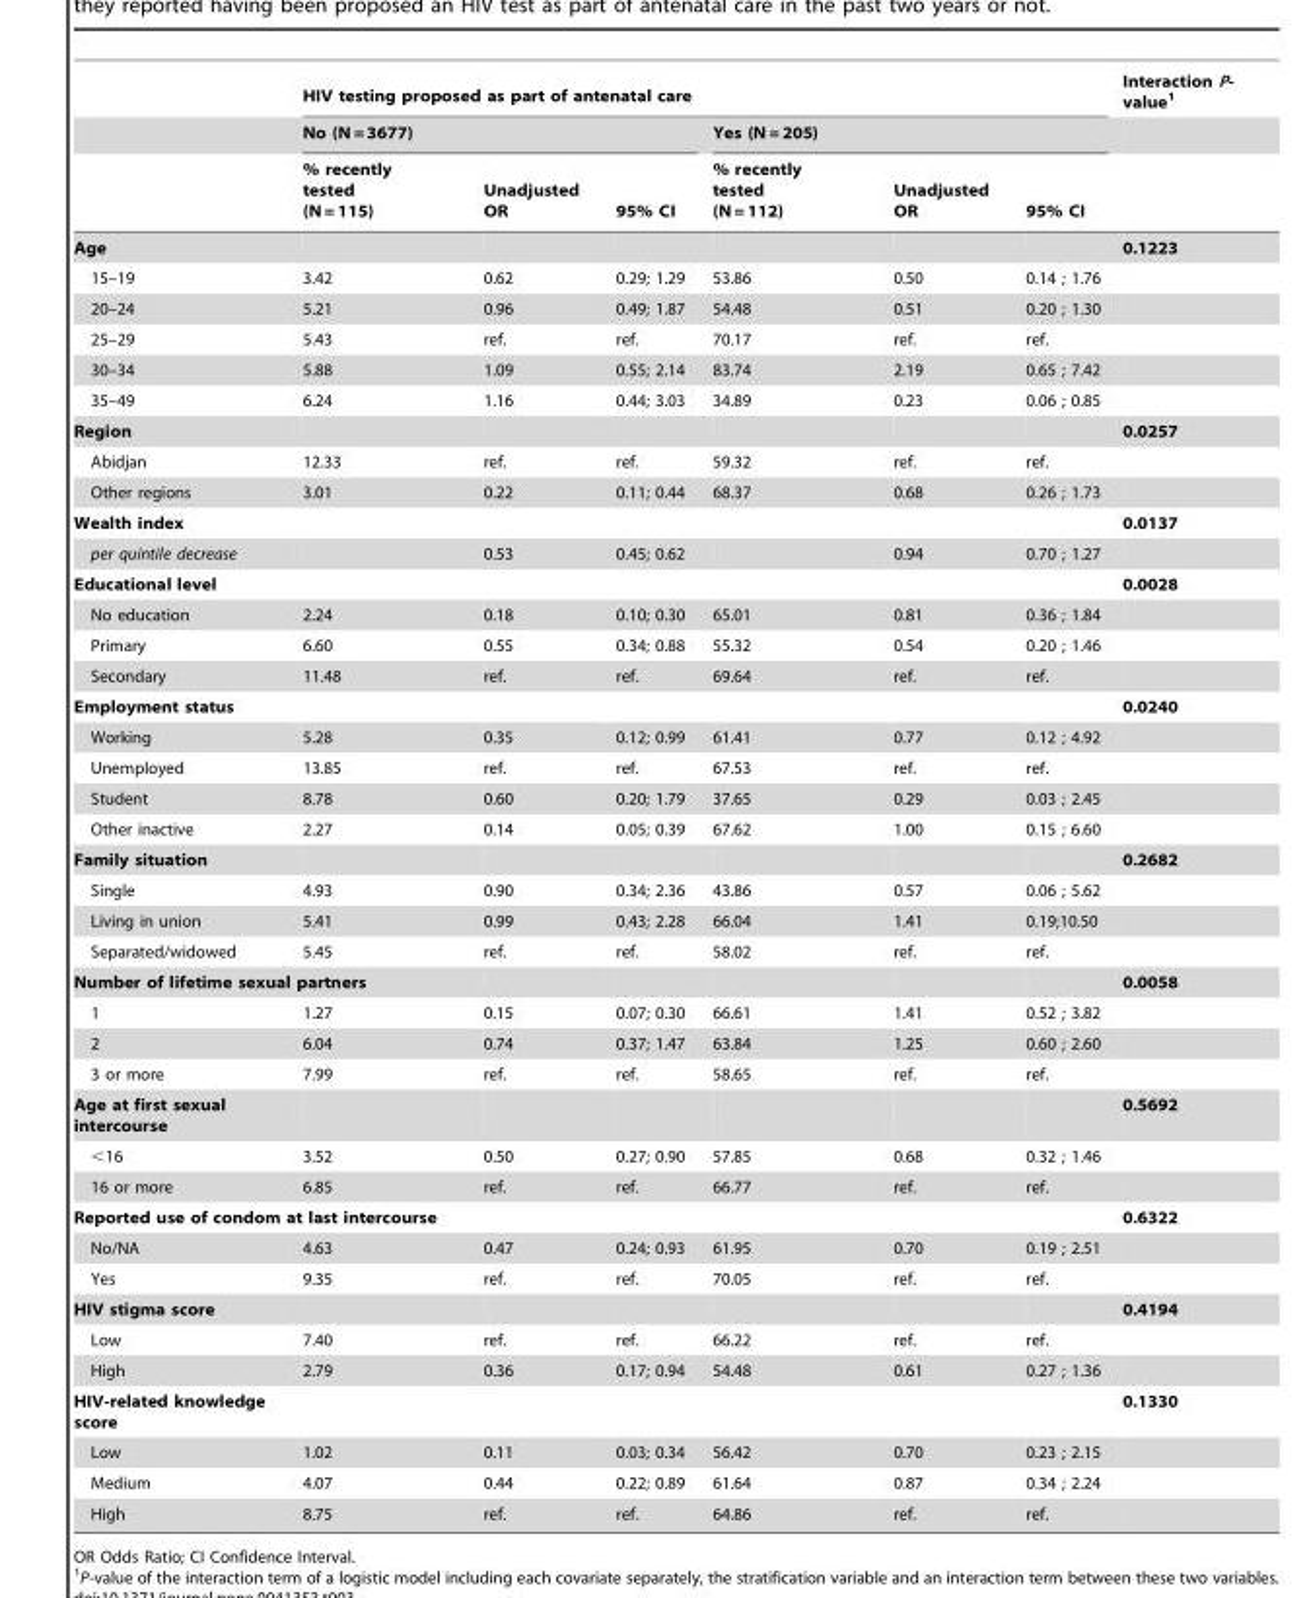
<table><thead><tr><td rowspan="3"></td><td colspan="6">HIV testing proposed as part of antenatal care</td><td rowspan="3">Interaction P- value<sup>1</sup></td></tr><tr><td colspan="3">No (N = 3677)</td><td colspan="3">Yes (N = 205)</td></tr><tr><td>% recently tested (N = 115)</td><td>Unadjusted OR</td><td>95% CI</td><td>% recently tested (N = 112)</td><td>Unadjusted OR</td><td>95% CI</td></tr></thead><tbody><tr><td>Age</td><td></td><td></td><td></td><td></td><td></td><td></td><td>0.1223</td></tr><tr><td>15–19</td><td>3.42</td><td>0.62</td><td>0.29; 1.29</td><td>53.86</td><td>0.50</td><td>0.14 ; 1.76</td><td></td></tr><tr><td>20–24</td><td>5.21</td><td>0.96</td><td>0.49; 1.87</td><td>54.48</td><td>0.51</td><td>0.20 ; 1.30</td><td></td></tr><tr><td>25–29</td><td>5.43</td><td>ref.</td><td>ref.</td><td>70.17</td><td>ref.</td><td>ref.</td><td></td></tr><tr><td>30–34</td><td>5.88</td><td>1.09</td><td>0.55; 2.14</td><td>83.74</td><td>2.19</td><td>0.65 ; 7.42</td><td></td></tr><tr><td>35–49</td><td>6.24</td><td>1.16</td><td>0.44; 3.03</td><td>34.89</td><td>0.23</td><td>0.06 ; 0.85</td><td></td></tr><tr><td>Region</td><td></td><td></td><td></td><td></td><td></td><td></td><td>0.0257</td></tr><tr><td>Abidjan</td><td>12.33</td><td>ref.</td><td>ref.</td><td>59.32</td><td>ref.</td><td>ref.</td><td></td></tr><tr><td>Other regions</td><td>3.01</td><td>0.22</td><td>0.11; 0.44</td><td>68.37</td><td>0.68</td><td>0.26 ; 1.73</td><td></td></tr><tr><td>Wealth index</td><td></td><td></td><td></td><td></td><td></td><td></td><td>0.0137</td></tr><tr><td>per quintile decrease</td><td></td><td>0.53</td><td>0.45; 0.62</td><td></td><td>0.94</td><td>0.70 ; 1.27</td><td></td></tr><tr><td>Educational level</td><td></td><td></td><td></td><td></td><td></td><td></td><td>0.0028</td></tr><tr><td>No education</td><td>2.24</td><td>0.18</td><td>0.10; 0.30</td><td>65.01</td><td>0.81</td><td>0.36 ; 1.84</td><td></td></tr><tr><td>Primary</td><td>6.60</td><td>0.55</td><td>0.34; 0.88</td><td>55.32</td><td>0.54</td><td>0.20 ; 1.46</td><td></td></tr><tr><td>Secondary</td><td>11.48</td><td>ref.</td><td>ref.</td><td>69.64</td><td>ref.</td><td>ref.</td><td></td></tr><tr><td>Employment status</td><td></td><td></td><td></td><td></td><td></td><td></td><td>0.0240</td></tr><tr><td>Working</td><td>5.28</td><td>0.35</td><td>0.12; 0.99</td><td>61.41</td><td>0.77</td><td>0.12 ; 4.92</td><td></td></tr><tr><td>Unemployed</td><td>13.85</td><td>ref.</td><td>ref.</td><td>67.53</td><td>ref.</td><td>ref.</td><td></td></tr><tr><td>Student</td><td>8.78</td><td>0.60</td><td>0.20; 1.79</td><td>37.65</td><td>0.29</td><td>0.03 ; 2.45</td><td></td></tr><tr><td>Other inactive</td><td>2.27</td><td>0.14</td><td>0.05; 0.39</td><td>67.62</td><td>1.00</td><td>0.15 ; 6.60</td><td></td></tr><tr><td>Family situation</td><td></td><td></td><td></td><td></td><td></td><td></td><td>0.2682</td></tr><tr><td>Single</td><td>4.93</td><td>0.90</td><td>0.34; 2.36</td><td>43.86</td><td>0.57</td><td>0.06 ; 5.62</td><td></td></tr><tr><td>Living in union</td><td>5.41</td><td>0.99</td><td>0.43; 2.28</td><td>66.04</td><td>1.41</td><td>0.19;10.50</td><td></td></tr><tr><td>Separated/widowed</td><td>5.45</td><td>ref.</td><td>ref.</td><td>58.02</td><td>ref.</td><td>ref.</td><td></td></tr><tr><td colspan="2">Number of lifetime sexual partners</td><td></td><td></td><td></td><td></td><td></td><td>0.0058</td></tr><tr><td>1</td><td>1.27</td><td>0.15</td><td>0.07; 0.30</td><td>66.61</td><td>1.41</td><td>0.52 ; 3.82</td><td></td></tr><tr><td>2</td><td>6.04</td><td>0.74</td><td>0.37; 1.47</td><td>63.84</td><td>1.25</td><td>0.60 ; 2.60</td><td></td></tr><tr><td>3 or more</td><td>7.99</td><td>ref.</td><td>ref.</td><td>58.65</td><td>ref.</td><td>ref.</td><td></td></tr><tr><td>Age at first sexual intercourse</td><td></td><td></td><td></td><td></td><td></td><td></td><td>0.5692</td></tr><tr><td>&lt;16</td><td>3.52</td><td>0.50</td><td>0.27; 0.90</td><td>57.85</td><td>0.68</td><td>0.32 ; 1.46</td><td></td></tr><tr><td>16 or more</td><td>6.85</td><td>ref.</td><td>ref.</td><td>66.77</td><td>ref.</td><td>ref.</td><td></td></tr><tr><td colspan="2">Reported use of condom at last intercourse</td><td></td><td></td><td></td><td></td><td></td><td>0.6322</td></tr><tr><td>No/NA</td><td>4.63</td><td>0.47</td><td>0.24; 0.93</td><td>61.95</td><td>0.70</td><td>0.19 ; 2.51</td><td></td></tr><tr><td>Yes</td><td>9.35</td><td>ref.</td><td>ref.</td><td>70.05</td><td>ref.</td><td>ref.</td><td></td></tr><tr><td>HIV stigma score</td><td></td><td></td><td></td><td></td><td></td><td></td><td>0.4194</td></tr><tr><td>Low</td><td>7.40</td><td>ref.</td><td>ref.</td><td>66.22</td><td>ref.</td><td>ref.</td><td></td></tr><tr><td>High</td><td>2.79</td><td>0.36</td><td>0.17; 0.94</td><td>54.48</td><td>0.61</td><td>0.27 ; 1.36</td><td></td></tr><tr><td>HIV-related knowledge score</td><td></td><td></td><td></td><td></td><td></td><td></td><td>0.1330</td></tr><tr><td>Low</td><td>1.02</td><td>0.11</td><td>0.03; 0.34</td><td>56.42</td><td>0.70</td><td>0.23 ; 2.15</td><td></td></tr><tr><td>Medium</td><td>4.07</td><td>0.44</td><td>0.22; 0.89</td><td>61.64</td><td>0.87</td><td>0.34 ; 2.24</td><td></td></tr><tr><td>High</td><td>8.75</td><td>ref.</td><td>ref.</td><td>64.86</td><td>ref.</td><td>ref.</td><td></td></tr></tbody></table>